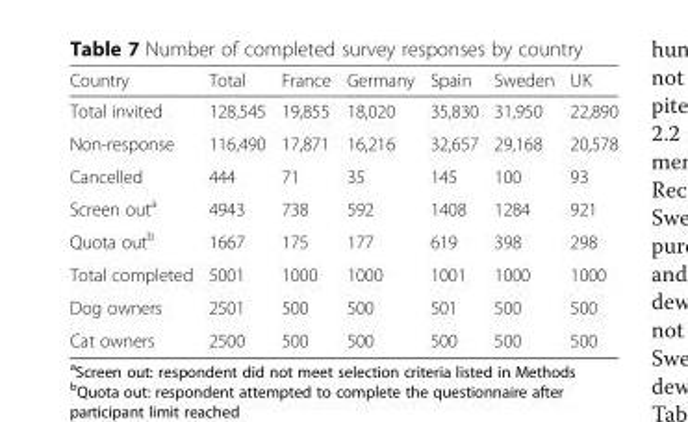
<table><thead><tr><td>Country</td><td>Total</td><td>France</td><td>Germany</td><td>Spain</td><td>Sweden</td><td>UK</td></tr></thead><tbody><tr><td>Total invited</td><td>128,545</td><td>19,855</td><td>18,020</td><td>35,830</td><td>31,950</td><td>22,890</td></tr><tr><td>Non-response</td><td>116,490</td><td>17,871</td><td>16,216</td><td>32,657</td><td>29,168</td><td>20,578</td></tr><tr><td>Cancelled</td><td>444</td><td>71</td><td>35</td><td>145</td><td>100</td><td>93</td></tr><tr><td>Screen out<sup>a</sup></td><td>4943</td><td>738</td><td>592</td><td>1408</td><td>1284</td><td>921</td></tr><tr><td>Quota out<sup>b</sup></td><td>1667</td><td>175</td><td>177</td><td>619</td><td>398</td><td>298</td></tr><tr><td>Total completed</td><td>5001</td><td>1000</td><td>1000</td><td>1001</td><td>1000</td><td>1000</td></tr><tr><td>Dog owners</td><td>2501</td><td>500</td><td>500</td><td>501</td><td>500</td><td>500</td></tr><tr><td>Cat owners</td><td>2500</td><td>500</td><td>500</td><td>500</td><td>500</td><td>500</td></tr></tbody></table>